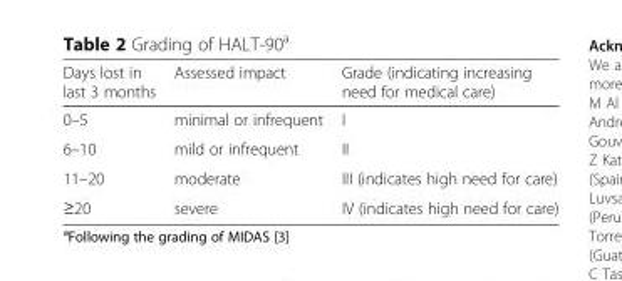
<table><thead><tr><td>Days lost in last 3 months</td><td>Assessed impact</td><td>Grade (indicating increasing need for medical care)</td></tr></thead><tbody><tr><td>0–5</td><td>minimal or infrequent</td><td>I</td></tr><tr><td>6–10</td><td>mild or infrequent</td><td>II</td></tr><tr><td>11–20</td><td>moderate</td><td>III (indicates high need for care)</td></tr><tr><td>≥20</td><td>severe</td><td>IV (indicates high need for care)</td></tr></tbody></table>